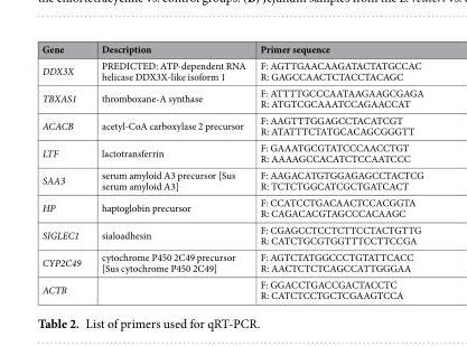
<table><thead><tr><td>Gene</td><td>Description</td><td>Primer sequence</td></tr></thead><tbody><tr><td>DDX3X</td><td>PREDICTED: ATP-dependent RNA helicase DDX3X-like isoform 1</td><td>F: AGTTGAACAAGATACTATGCCAC R: GAGCCAACTCTACCTACAGC</td></tr><tr><td>TBXAS1</td><td>thromboxane-A synthase</td><td>F: ATTTTGCCCAATAAGAAGCGAGA R: ATGTCGCAAATCCAGAACCAT</td></tr><tr><td>ACACB</td><td>acetyl-CoA carboxylase 2 precursor</td><td>F: AAGTTTGGAGCCTACATCGT R: ATATTTCTATGCACAGCGGGTT</td></tr><tr><td>LTF</td><td>lactotransferrin</td><td>F: GAAATGCGTATCCCAACCTGT R: AAAAGCCACATCTCCAATCCC</td></tr><tr><td>SAA3</td><td>serum amyloid A3 precursor [Sus serum amyloid A3]</td><td>F: AAGACATGTGGAGAGCCTACTCG R: TCTCTGGCATCGCTGATCACT</td></tr><tr><td>HP</td><td>haptoglobin precursor</td><td>F: CCATCCTGACAACTCCACGGTA R: CAGACACGTAGCCCACAAGC</td></tr><tr><td>SIGLEC1</td><td>sialoadhesin</td><td>F: CGAGCCTCCTCTTCCTACTGTTG R: CATCTGCGTGGTTTCCTTCCGA</td></tr><tr><td>CYP2C49</td><td>cytochrome P450 2C49 precursor [Sus cytochrome P450 2C49]</td><td>F: AGTCTATGGCCCTGTATTCACC R: AACTCTCTCAGCCATTGGGAA</td></tr><tr><td>ACTB</td><td></td><td>F: GGACCTGACCGACTACCTC R: CATCTCCTGCTCGAAGTCCA</td></tr></tbody></table>